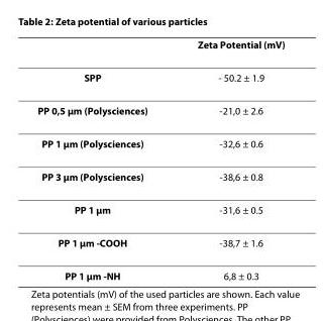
<table><thead><tr><td></td><td>Zeta Potential (mV)</td></tr></thead><tbody><tr><td>SPP</td><td>- 50.2 ± 1.9</td></tr><tr><td>PP 0,5 μm (Polysciences)</td><td>-21,0 ± 2.6</td></tr><tr><td>PP 1 μm (Polysciences)</td><td>-32,6 ± 0.6</td></tr><tr><td>PP 3 μm (Polysciences)</td><td>-38,6 ± 0.8</td></tr><tr><td>PP 1 μm</td><td>-31,6 ± 0.5</td></tr><tr><td>PP 1 μm -COOH</td><td>-38,7 ± 1.6</td></tr><tr><td>PP 1 μm -NH</td><td>6,8 ± 0.3</td></tr></tbody></table>